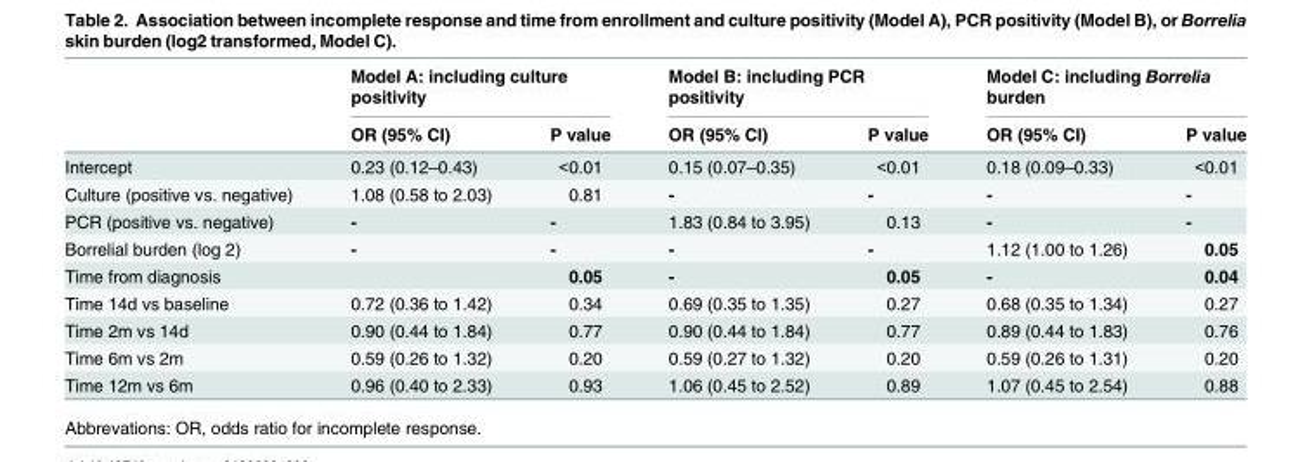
<table><thead><tr><td rowspan="2"></td><td colspan="2">Model A: including culture positivity</td><td colspan="2">Model B: including PCR positivity</td><td colspan="2">Model C: including Borrelia burden</td></tr><tr><td>OR (95% CI)</td><td>P value</td><td>OR (95% CI)</td><td>P value</td><td>OR (95% CI)</td><td>P value</td></tr></thead><tbody><tr><td>Intercept</td><td>0.23 (0.12–0.43)</td><td>&lt;0.01</td><td>0.15 (0.07–0.35)</td><td>&lt;0.01</td><td>0.18 (0.09–0.33)</td><td>&lt;0.01</td></tr><tr><td>Culture (positive vs. negative)</td><td>1.08 (0.58 to 2.03)</td><td>0.81</td><td>-</td><td>-</td><td>-</td><td>-</td></tr><tr><td>PCR (positive vs. negative)</td><td>-</td><td>-</td><td>1.83 (0.84 to 3.95)</td><td>0.13</td><td>-</td><td>-</td></tr><tr><td>Borrelial burden (log 2)</td><td>-</td><td>-</td><td>-</td><td>-</td><td>1.12 (1.00 to 1.26)</td><td>0.05</td></tr><tr><td>Time from diagnosis</td><td></td><td>0.05</td><td>-</td><td>0.05</td><td>-</td><td>0.04</td></tr><tr><td>Time 14d vs baseline</td><td>0.72 (0.36 to 1.42)</td><td>0.34</td><td>0.69 (0.35 to 1.35)</td><td>0.27</td><td>0.68 (0.35 to 1.34)</td><td>0.27</td></tr><tr><td>Time 2m vs 14d</td><td>0.90 (0.44 to 1.84)</td><td>0.77</td><td>0.90 (0.44 to 1.84)</td><td>0.77</td><td>0.89 (0.44 to 1.83)</td><td>0.76</td></tr><tr><td>Time 6m vs 2m</td><td>0.59 (0.26 to 1.32)</td><td>0.20</td><td>0.59 (0.27 to 1.32)</td><td>0.20</td><td>0.59 (0.26 to 1.31)</td><td>0.20</td></tr><tr><td>Time 12m vs 6m</td><td>0.96 (0.40 to 2.33)</td><td>0.93</td><td>1.06 (0.45 to 2.52)</td><td>0.89</td><td>1.07 (0.45 to 2.54)</td><td>0.88</td></tr></tbody></table>